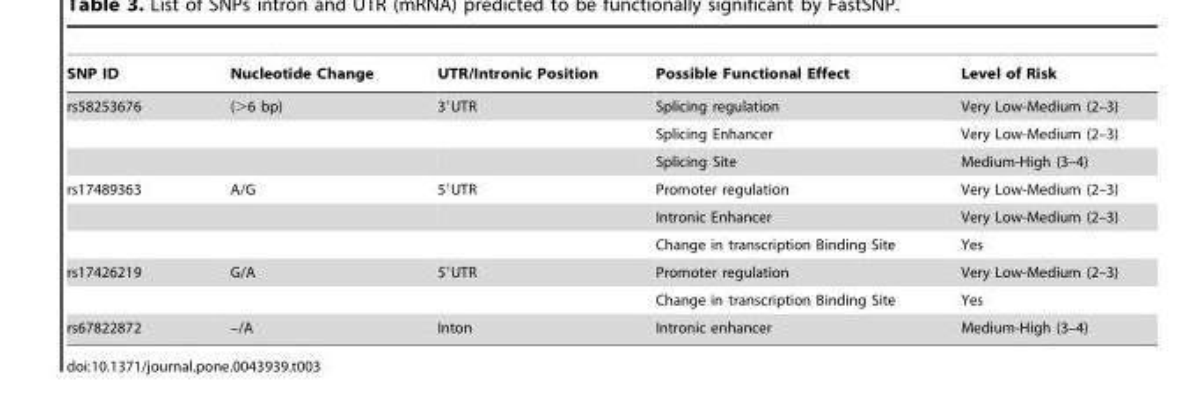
<table><thead><tr><td>SNP ID</td><td>Nucleotide Change</td><td>UTR/Intronic Position</td><td>Possible Functional Effect</td><td>Level of Risk</td></tr></thead><tbody><tr><td rowspan="3">rs58253676</td><td>(&gt;6 bp)</td><td>3′UTR</td><td>Splicing regulation</td><td>Very Low-Medium (2–3)</td></tr><tr><td></td><td></td><td>Splicing Enhancer</td><td>Very Low-Medium (2–3)</td></tr><tr><td></td><td></td><td>Splicing Site</td><td>Medium-High (3–4)</td></tr><tr><td rowspan="3">rs17489363</td><td>A/G</td><td>5′UTR</td><td>Promoter regulation</td><td>Very Low-Medium (2–3)</td></tr><tr><td></td><td></td><td>Intronic Enhancer</td><td>Very Low-Medium (2–3)</td></tr><tr><td></td><td></td><td>Change in transcription Binding Site</td><td>Yes</td></tr><tr><td rowspan="2">rs17426219</td><td>G/A</td><td>5′UTR</td><td>Promoter regulation</td><td>Very Low-Medium (2–3)</td></tr><tr><td></td><td></td><td>Change in transcription Binding Site</td><td>Yes</td></tr><tr><td>rs67822872</td><td>–/A</td><td>Inton</td><td>Intronic enhancer</td><td>Medium-High (3–4)</td></tr></tbody></table>